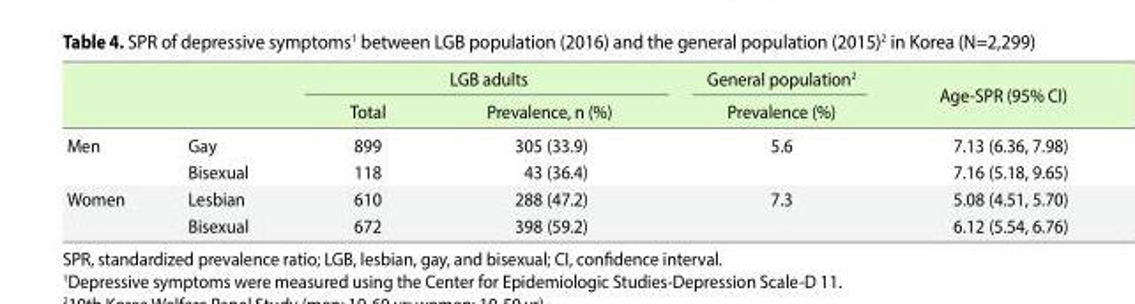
<table><thead><tr><td rowspan="2"></td><td rowspan="2"></td><td colspan="2">LGB adults</td><td rowspan="2">General population<sup>2</sup> Prevalence (%)</td><td rowspan="2">Age-SPR (95% CI)</td></tr><tr><td>Total</td><td>Prevalence, n (%)</td></tr></thead><tbody><tr><td rowspan="2">Men</td><td>Gay</td><td>899</td><td>305 (33.9)</td><td>5.6</td><td>7.13 (6.36, 7.98)</td></tr><tr><td>Bisexual</td><td>118</td><td>43 (36.4)</td><td></td><td>7.16 (5.18, 9.65)</td></tr><tr><td rowspan="2">Women</td><td>Lesbian</td><td>610</td><td>288 (47.2)</td><td>7.3</td><td>5.08 (4.51, 5.70)</td></tr><tr><td>Bisexual</td><td>672</td><td>398 (59.2)</td><td></td><td>6.12 (5.54, 6.76)</td></tr></tbody></table>